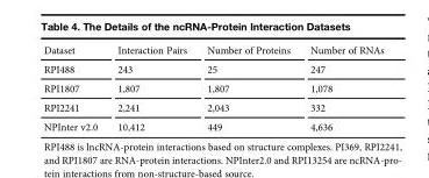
<table><thead><tr><td>Dataset</td><td>Interaction Pairs</td><td>Number of Proteins</td><td>Number of RNAs</td></tr></thead><tbody><tr><td>RPI488</td><td>243</td><td>25</td><td>247</td></tr><tr><td>RPI1807</td><td>1,807</td><td>1,807</td><td>1,078</td></tr><tr><td>RPI2241</td><td>2,241</td><td>2,043</td><td>332</td></tr><tr><td>NPInter v2.0</td><td>10,412</td><td>449</td><td>4,636</td></tr></tbody></table>